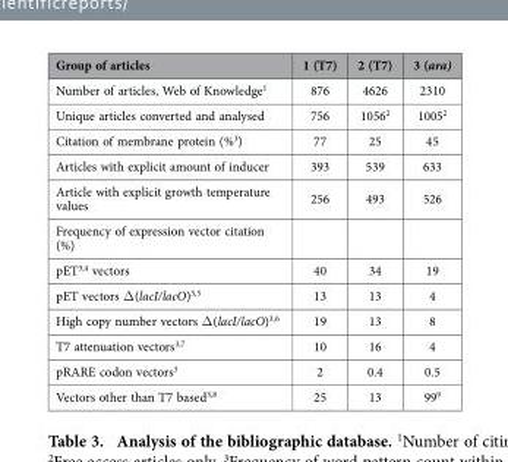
<table><thead><tr><td>Group of articles</td><td>1 (T7)</td><td>2 (T7)</td><td>3 (ara)</td></tr></thead><tbody><tr><td>Number of articles, Web of Knowledge<sup>1</sup></td><td>876</td><td>4626</td><td>2310</td></tr><tr><td>Unique articles converted and analysed</td><td>756</td><td>1056<sup>2</sup></td><td>1005<sup>2</sup></td></tr><tr><td>Citation of membrane protein (%<sup>3</sup>)</td><td>77</td><td>25</td><td>45</td></tr><tr><td>Articles with explicit amount of inducer</td><td>393</td><td>539</td><td>633</td></tr><tr><td>Article with explicit growth temperature values</td><td>256</td><td>493</td><td>526</td></tr><tr><td colspan="4">Frequency of expression vector citation (%)</td></tr><tr><td>pET3,<sup>4</sup> vectors</td><td>40</td><td>34</td><td>19</td></tr><tr><td>pET vectors Δ (lacI/lacO)<sup>3</sup>,<sup>5</sup></td><td>13</td><td>13</td><td>4</td></tr><tr><td>High copy number vectors Δ (lacI/lacO)<sup>3</sup>,<sup>6</sup></td><td>19</td><td>13</td><td>8</td></tr><tr><td>T7 attenuation vectors3,<sup>7</sup></td><td>10</td><td>16</td><td>4</td></tr><tr><td>pRARE codon vectors<sup>3</sup></td><td>2</td><td>0.4</td><td>0.5</td></tr><tr><td>Vectors other than T7 based3,<sup>8</sup></td><td>25</td><td>13</td><td>99<sup>9</sup></td></tr></tbody></table>